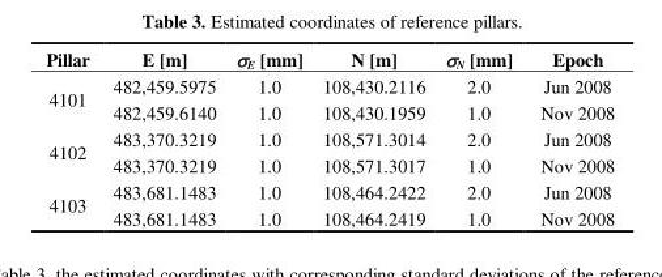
<table><thead><tr><td>Pillar</td><td>E [m]</td><td>σ<sub>E</sub> [mm]</td><td>N [m]</td><td>σ<sub>N</sub> [mm]</td><td>Epoch</td></tr></thead><tbody><tr><td rowspan="2">4101</td><td>482,459.5975</td><td>1.0</td><td>108,430.2116</td><td>2.0</td><td>Jun 2008</td></tr><tr><td>482,459.6140</td><td>1.0</td><td>108,430.1959</td><td>1.0</td><td>Nov 2008</td></tr><tr><td rowspan="2">4102</td><td>483,370.3219</td><td>1.0</td><td>108,571.3014</td><td>2.0</td><td>Jun 2008</td></tr><tr><td>483,370.3219</td><td>1.0</td><td>108,571.3017</td><td>1.0</td><td>Nov 2008</td></tr><tr><td rowspan="2">4103</td><td>483,681.1483</td><td>1.0</td><td>108,464.2422</td><td>2.0</td><td>Jun 2008</td></tr><tr><td>483,681.1483</td><td>1.0</td><td>108,464.2419</td><td>1.0</td><td>Nov 2008</td></tr></tbody></table>